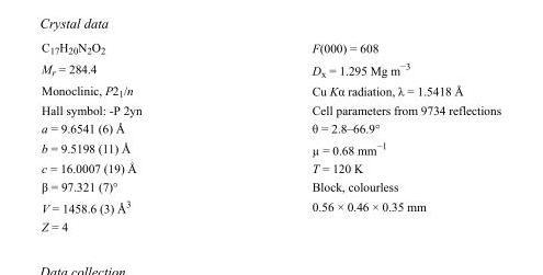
<table><tbody><tr><td>C<sub>17</sub>H<sub>20</sub>N<sub>2</sub>O<sub>2</sub></td><td>F(000) = 608</td></tr><tr><td>M<sub>r</sub> = 284.4</td><td>D<sub>x</sub> = 1.295 Mg m<sup>−3</sup></td></tr><tr><td>Monoclinic, P2<sub>1</sub>/n</td><td>Cu Kα radiation, λ = 1.5418 Å</td></tr><tr><td>Hall symbol: -P 2yn</td><td>Cell parameters from 9734 reflections</td></tr><tr><td>a = 9.6541 (6) Å</td><td>θ = 2.8–66.9°</td></tr><tr><td>b = 9.5198 (11) Å</td><td>µ = 0.68 mm<sup>−1</sup></td></tr><tr><td>c = 16.0007 (19) Å</td><td>T = 120 K</td></tr><tr><td>β = 97.321 (7)°</td><td>Block, colourless</td></tr><tr><td>V = 1458.6 (3) Å<sup>3</sup></td><td>0.56 × 0.46 × 0.35 mm</td></tr><tr><td>Z = 4</td><td></td></tr></tbody></table>